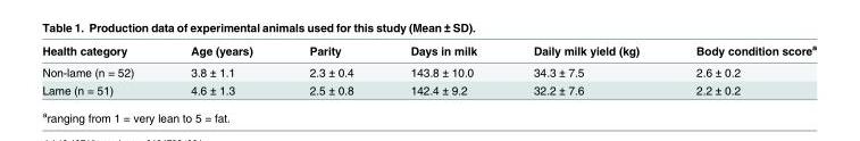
<table><thead><tr><td>Health category</td><td>Age (years)</td><td>Parity</td><td>Days in milk</td><td>Daily milk yield (kg)</td><td>Body condition score<sup>a</sup></td></tr></thead><tbody><tr><td>Non-lame (n = 52)</td><td>3.8 ± 1.1</td><td>2.3 ± 0.4</td><td>143.8 ± 10.0</td><td>34.3 ± 7.5</td><td>2.6 ± 0.2</td></tr><tr><td>Lame (n = 51)</td><td>4.6 ± 1.3</td><td>2.5 ± 0.8</td><td>142.4 ± 9.2</td><td>32.2 ± 7.6</td><td>2.2 ± 0.2</td></tr></tbody></table>